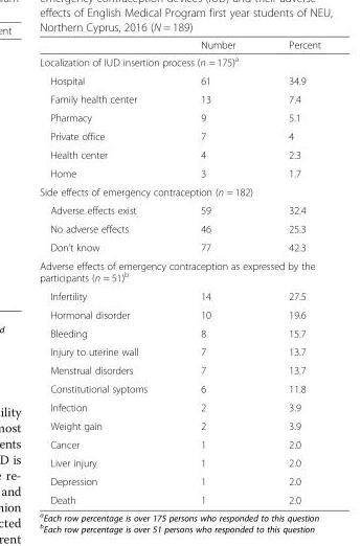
<table><thead><tr><td></td><td>Number</td><td>Percent</td></tr></thead><tbody><tr><td colspan="3">Localization of IUD insertion process (n = 175)<sup>a</sup></td></tr><tr><td>Hospital</td><td>61</td><td>34.9</td></tr><tr><td>Family health center</td><td>13</td><td>7.4</td></tr><tr><td>Pharmacy</td><td>9</td><td>5.1</td></tr><tr><td>Private office</td><td>7</td><td>4</td></tr><tr><td>Health center</td><td>4</td><td>2.3</td></tr><tr><td>Home</td><td>3</td><td>1.7</td></tr><tr><td colspan="3">Side effects of emergency contraception (n = 182)</td></tr><tr><td>Adverse effects exist</td><td>59</td><td>32.4</td></tr><tr><td>No adverse effects</td><td>46</td><td>25.3</td></tr><tr><td>Don’t know</td><td>77</td><td>42.3</td></tr><tr><td colspan="3">Adverse effects of emergency contraception as expressed by the participants (n = 51)<sup>b</sup></td></tr><tr><td>Infertility</td><td>14</td><td>27.5</td></tr><tr><td>Hormonal disorder</td><td>10</td><td>19.6</td></tr><tr><td>Bleeding</td><td>8</td><td>15.7</td></tr><tr><td>Injury to uterine wall</td><td>7</td><td>13.7</td></tr><tr><td>Menstrual disorders</td><td>7</td><td>13.7</td></tr><tr><td>Constitutional syptoms</td><td>6</td><td>11.8</td></tr><tr><td>Infection</td><td>2</td><td>3.9</td></tr><tr><td>Weight gain</td><td>2</td><td>3.9</td></tr><tr><td>Cancer</td><td>1</td><td>2.0</td></tr><tr><td>Liver injury</td><td>1</td><td>2.0</td></tr><tr><td>Depression</td><td>1</td><td>2.0</td></tr><tr><td>Death</td><td>1</td><td>2.0</td></tr></tbody></table>